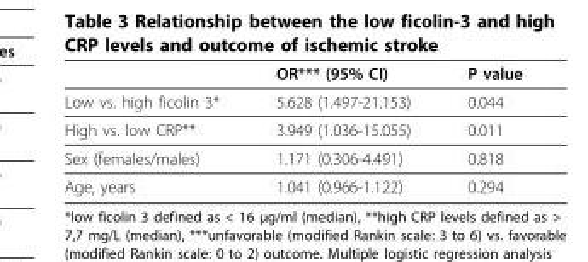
<table><thead><tr><td></td><td>OR*** (95% CI)</td><td>P value</td></tr></thead><tbody><tr><td>Low vs. high ficolin 3*</td><td>5.628 (1.497-21.153)</td><td>0.044</td></tr><tr><td>High vs. low CRP**</td><td>3.949 (1.036-15.055)</td><td>0.011</td></tr><tr><td>Sex (females/males)</td><td>1.171 (0.306-4.491)</td><td>0.818</td></tr><tr><td>Age, years</td><td>1.041 (0.966-1.122)</td><td>0.294</td></tr></tbody></table>